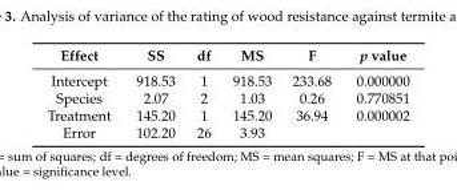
<table><thead><tr><td>Effect</td><td>SS</td><td>df</td><td>MS</td><td>F</td><td>p value</td></tr></thead><tbody><tr><td>Intercept</td><td>918.53</td><td>1</td><td>918.53</td><td>233.68</td><td>0.000000</td></tr><tr><td>Species</td><td>2.07</td><td>2</td><td>1.03</td><td>0.26</td><td>0.770851</td></tr><tr><td>Treatment</td><td>145.20</td><td>1</td><td>145.20</td><td>36.94</td><td>0.000002</td></tr><tr><td>Error</td><td>102.20</td><td>26</td><td>3.93</td><td></td><td></td></tr></tbody></table>